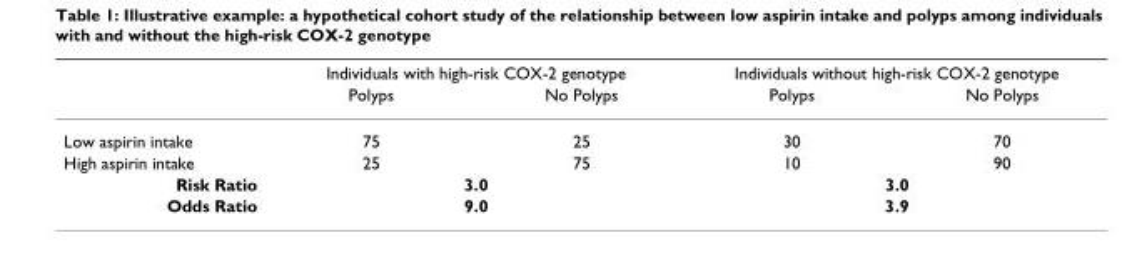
<table><thead><tr><td rowspan="2"></td><td colspan="2">Individuals with high-risk COX-2 genotype</td><td colspan="2">Individuals without high-risk COX-2 genotype</td></tr><tr><td>Polyps</td><td>No Polyps</td><td>Polyps</td><td>No Polyps</td></tr></thead><tbody><tr><td>Low aspirin intake</td><td>75</td><td>25</td><td>30</td><td>70</td></tr><tr><td>High aspirin intake</td><td>25</td><td>75</td><td>10</td><td>90</td></tr><tr><td>Risk Ratio</td><td colspan="2">3.0</td><td colspan="2">3.0</td></tr><tr><td>Odds Ratio</td><td colspan="2">9.0</td><td colspan="2">3.9</td></tr></tbody></table>